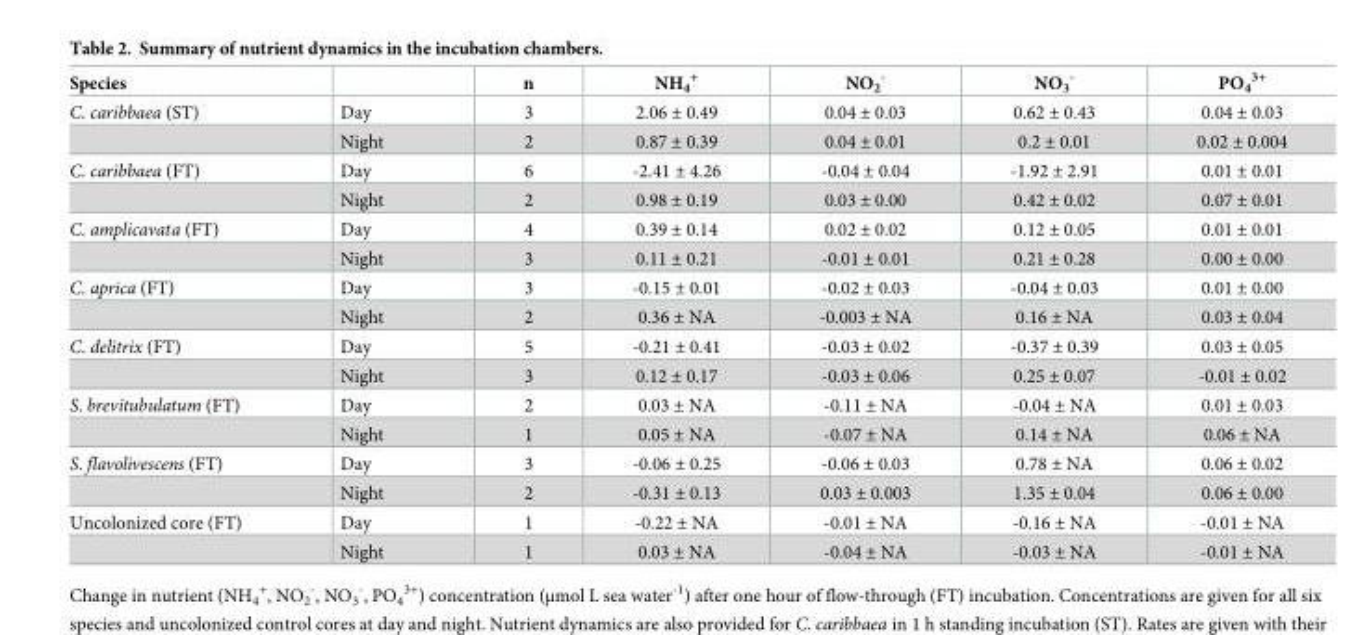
<table><thead><tr><td>Species</td><td></td><td>n</td><td>NH<sub>4</sub> <sup>+</sup></td><td>NO<sub>2</sub> <sup>-</sup></td><td>NO<sub>3</sub> <sup>-</sup></td><td>PO<sub>4</sub> <sup>3+</sup></td></tr></thead><tbody><tr><td rowspan="2">C. caribbaea (ST)</td><td>Day</td><td>3</td><td>2.06 ± 0.49</td><td>0.04 ± 0.03</td><td>0.62 ± 0.43</td><td>0.04 ± 0.03</td></tr><tr><td>Night</td><td>2</td><td>0.87 ± 0.39</td><td>0.04 ± 0.01</td><td>0.2 ± 0.01</td><td>0.02 ± 0.004</td></tr><tr><td rowspan="2">C. caribbaea (FT)</td><td>Day</td><td>6</td><td>-2.41 ± 4.26</td><td>-0.04 ± 0.04</td><td>-1.92 ± 2.91</td><td>0.01 ± 0.01</td></tr><tr><td>Night</td><td>2</td><td>0.98 ± 0.19</td><td>0.03 ± 0.00</td><td>0.42 ± 0.02</td><td>0.07 ± 0.01</td></tr><tr><td rowspan="2">C. amplicavata (FT)</td><td>Day</td><td>4</td><td>0.39 ± 0.14</td><td>0.02 ± 0.02</td><td>0.12 ± 0.05</td><td>0.01 ± 0.01</td></tr><tr><td>Night</td><td>3</td><td>0.11 ± 0.21</td><td>-0.01 ± 0.01</td><td>0.21 ± 0.28</td><td>0.00 ± 0.00</td></tr><tr><td rowspan="2">C. aprica (FT)</td><td>Day</td><td>3</td><td>-0.15 ± 0.01</td><td>-0.02 ± 0.03</td><td>-0.04 ± 0.03</td><td>0.01 ± 0.00</td></tr><tr><td>Night</td><td>2</td><td>0.36 ± NA</td><td>-0.003 ± NA</td><td>0.16 ± NA</td><td>0.03 ± 0.04</td></tr><tr><td rowspan="2">C. delitrix (FT)</td><td>Day</td><td>5</td><td>-0.21 ± 0.41</td><td>-0.03 ± 0.02</td><td>-0.37 ± 0.39</td><td>0.03 ± 0.05</td></tr><tr><td>Night</td><td>3</td><td>0.12 ± 0.17</td><td>-0.03 ± 0.06</td><td>0.25 ± 0.07</td><td>-0.01 ± 0.02</td></tr><tr><td rowspan="2">S. brevitubulatum (FT)</td><td>Day</td><td>2</td><td>0.03 ± NA</td><td>-0.11 ± NA</td><td>-0.04 ± NA</td><td>0.01 ± 0.03</td></tr><tr><td>Night</td><td>1</td><td>0.05 ± NA</td><td>-0.07 ± NA</td><td>0.14 ± NA</td><td>0.06 ± NA</td></tr><tr><td rowspan="2">S. flavolivescens (FT)</td><td>Day</td><td>3</td><td>-0.06 ± 0.25</td><td>-0.06 ± 0.03</td><td>0.78 ± NA</td><td>0.06 ± 0.02</td></tr><tr><td>Night</td><td>2</td><td>-0.31 ± 0.13</td><td>0.03 ± 0.003</td><td>1.35 ± 0.04</td><td>0.06 ± 0.00</td></tr><tr><td rowspan="2">Uncolonized core (FT)</td><td>Day</td><td>1</td><td>-0.22 ± NA</td><td>-0.01 ± NA</td><td>-0.16 ± NA</td><td>-0.01 ± NA</td></tr><tr><td>Night</td><td>1</td><td>0.03 ± NA</td><td>-0.04 ± NA</td><td>-0.03 ± NA</td><td>-0.01 ± NA</td></tr></tbody></table>